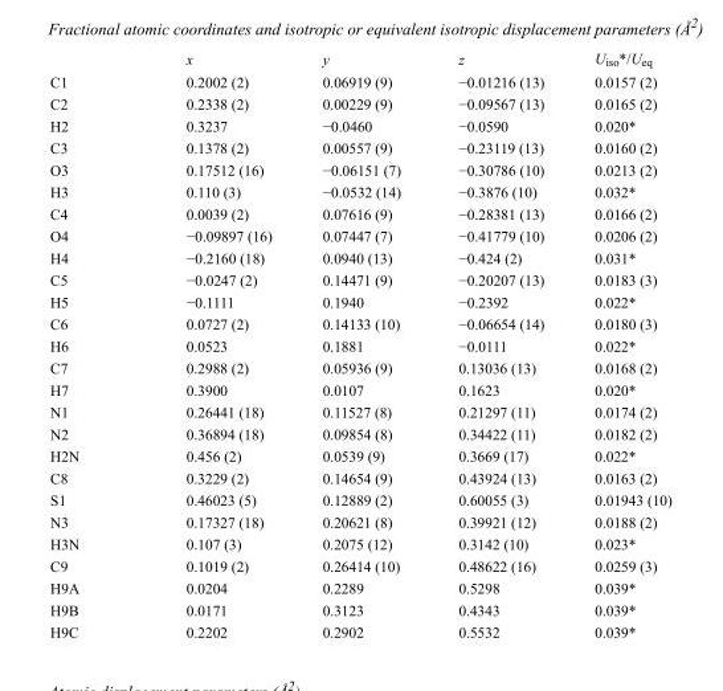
<table><thead><tr><td></td><td>x</td><td>y</td><td>z</td><td>U<sub>iso</sub>*/U<sub>eq</sub></td></tr></thead><tbody><tr><td>C1</td><td>0.2002 (2)</td><td>0.06919 (9)</td><td>−0.01216 (13)</td><td>0.0157 (2)</td></tr><tr><td>C2</td><td>0.2338 (2)</td><td>0.00229 (9)</td><td>−0.09567 (13)</td><td>0.0165 (2)</td></tr><tr><td>H2</td><td>0.3237</td><td>−0.0460</td><td>−0.0590</td><td>0.020*</td></tr><tr><td>C3</td><td>0.1378 (2)</td><td>0.00557 (9)</td><td>−0.23119 (13)</td><td>0.0160 (2)</td></tr><tr><td>O3</td><td>0.17512 (16)</td><td>−0.06151 (7)</td><td>−0.30786 (10)</td><td>0.0213 (2)</td></tr><tr><td>H3</td><td>0.110 (3)</td><td>−0.0532 (14)</td><td>−0.3876 (10)</td><td>0.032*</td></tr><tr><td>C4</td><td>0.0039 (2)</td><td>0.07616 (9)</td><td>−0.28381 (13)</td><td>0.0166 (2)</td></tr><tr><td>O4</td><td>−0.09897 (16)</td><td>0.07447 (7)</td><td>−0.41779 (10)</td><td>0.0206 (2)</td></tr><tr><td>H4</td><td>−0.2160 (18)</td><td>0.0940 (13)</td><td>−0.424 (2)</td><td>0.031*</td></tr><tr><td>C5</td><td>−0.0247 (2)</td><td>0.14471 (9)</td><td>−0.20207 (13)</td><td>0.0183 (3)</td></tr><tr><td>H5</td><td>−0.1111</td><td>0.1940</td><td>−0.2392</td><td>0.022*</td></tr><tr><td>C6</td><td>0.0727 (2)</td><td>0.14133 (10)</td><td>−0.06654 (14)</td><td>0.0180 (3)</td></tr><tr><td>H6</td><td>0.0523</td><td>0.1881</td><td>−0.0111</td><td>0.022*</td></tr><tr><td>C7</td><td>0.2988 (2)</td><td>0.05936 (9)</td><td>0.13036 (13)</td><td>0.0168 (2)</td></tr><tr><td>H7</td><td>0.3900</td><td>0.0107</td><td>0.1623</td><td>0.020*</td></tr><tr><td>N1</td><td>0.26441 (18)</td><td>0.11527 (8)</td><td>0.21297 (11)</td><td>0.0174 (2)</td></tr><tr><td>N2</td><td>0.36894 (18)</td><td>0.09854 (8)</td><td>0.34422 (11)</td><td>0.0182 (2)</td></tr><tr><td>H2N</td><td>0.456 (2)</td><td>0.0539 (9)</td><td>0.3669 (17)</td><td>0.022*</td></tr><tr><td>C8</td><td>0.3229 (2)</td><td>0.14654 (9)</td><td>0.43924 (13)</td><td>0.0163 (2)</td></tr><tr><td>S1</td><td>0.46023 (5)</td><td>0.12889 (2)</td><td>0.60055 (3)</td><td>0.01943 (10)</td></tr><tr><td>N3</td><td>0.17327 (18)</td><td>0.20621 (8)</td><td>0.39921 (12)</td><td>0.0188 (2)</td></tr><tr><td>H3N</td><td>0.107 (3)</td><td>0.2075 (12)</td><td>0.3142 (10)</td><td>0.023*</td></tr><tr><td>C9</td><td>0.1019 (2)</td><td>0.26414 (10)</td><td>0.48622 (16)</td><td>0.0259 (3)</td></tr><tr><td>H9A</td><td>0.0204</td><td>0.2289</td><td>0.5298</td><td>0.039*</td></tr><tr><td>H9B</td><td>0.0171</td><td>0.3123</td><td>0.4343</td><td>0.039*</td></tr><tr><td>H9C</td><td>0.2202</td><td>0.2902</td><td>0.5532</td><td>0.039*</td></tr></tbody></table>